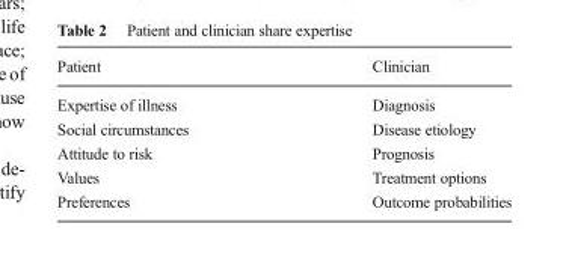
<table><thead><tr><td>Patient</td><td>Clinician</td></tr></thead><tbody><tr><td>Expertise of illness</td><td>Diagnosis</td></tr><tr><td>Social circumstances</td><td>Disease etiology</td></tr><tr><td>Attitude to risk</td><td>Prognosis</td></tr><tr><td>Values</td><td>Treatment options</td></tr><tr><td>Preferences</td><td>Outcome probabilities</td></tr></tbody></table>